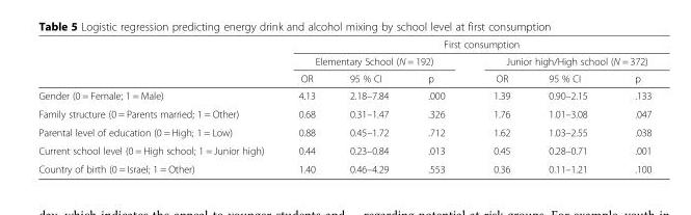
<table><thead><tr><td rowspan="3"></td><td colspan="6">First consumption</td></tr><tr><td colspan="3">Elementary School (N = 192)</td><td colspan="3">Junior high/High school (N = 372)</td></tr><tr><td>OR</td><td>95 % CI</td><td>p</td><td>OR</td><td>95 % CI</td><td>p</td></tr></thead><tbody><tr><td>Gender (0 = Female; 1 = Male)</td><td>4.13</td><td>2.18–7.84</td><td>.000</td><td>1.39</td><td>0.90–2.15</td><td>.133</td></tr><tr><td>Family structure (0 = Parents married; 1 = Other)</td><td>0.68</td><td>0.31–1.47</td><td>.326</td><td>1.76</td><td>1.01–3.08</td><td>.047</td></tr><tr><td>Parental level of education (0 = High; 1 = Low)</td><td>0.88</td><td>0.45–1.72</td><td>.712</td><td>1.62</td><td>1.03–2.55</td><td>.038</td></tr><tr><td>Current school level (0 = High school; 1 = Junior high)</td><td>0.44</td><td>0.23–0.84</td><td>.013</td><td>0.45</td><td>0.28–0.71</td><td>.001</td></tr><tr><td>Country of birth (0 = Israel; 1 = Other)</td><td>1.40</td><td>0.46–4.29</td><td>.553</td><td>0.36</td><td>0.11–1.21</td><td>.100</td></tr></tbody></table>